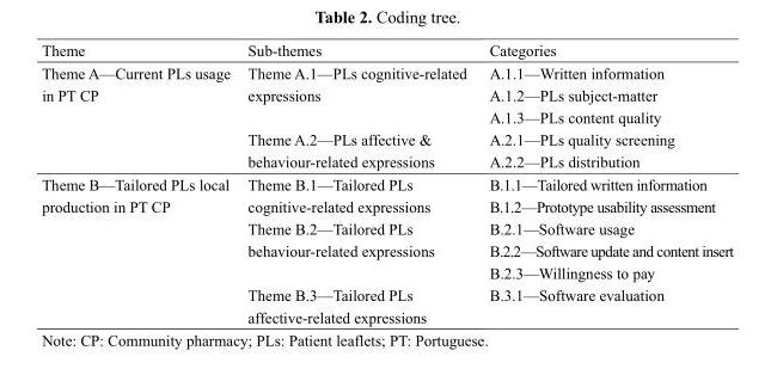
<table><thead><tr><td>Theme</td><td>Sub-themes</td><td>Categories</td></tr></thead><tbody><tr><td rowspan="5">Theme A—Current PLs usage in PT CP</td><td rowspan="3">Theme A.1—PLs cognitive-related expressions</td><td>A.1.1—Written information</td></tr><tr><td>A.1.2—PLs subject-matter</td></tr><tr><td>A.1.3—PLs content quality</td></tr><tr><td rowspan="2">Theme A.2—PLs affective &amp; behaviour-related expressions</td><td>A.2.1—PLs quality screening</td></tr><tr><td>A.2.2—PLs distribution</td></tr><tr><td rowspan="6">Theme B—Tailored PLs local production in PT CP</td><td rowspan="2">Theme B.1—Tailored PLs cognitive-related expressions</td><td>B.1.1—Tailored written information</td></tr><tr><td>B.1.2—Prototype usability assessment</td></tr><tr><td rowspan="3">Theme B.2—Tailored PLs behaviour-related expressions</td><td>B.2.1—Software usage</td></tr><tr><td>B.2.2—Software update and content insert</td></tr><tr><td>B.2.3—Willingness to pay</td></tr><tr><td>Theme B.3—Tailored PLs affective-related expressions</td><td>B.3.1—Software evaluation</td></tr></tbody></table>